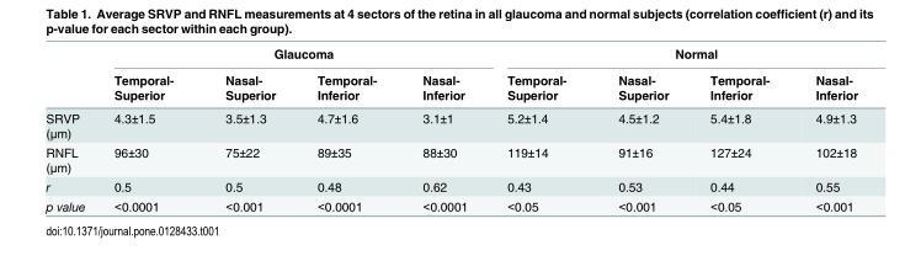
<table><thead><tr><td rowspan="2"></td><td colspan="4">Glaucoma</td><td colspan="4">Normal</td></tr><tr><td>Temporal- Superior</td><td>Nasal- Superior</td><td>Temporal- Inferior</td><td>Nasal- Inferior</td><td>Temporal- Superior</td><td>Nasal- Superior</td><td>Temporal- Inferior</td><td>Nasal- Inferior</td></tr></thead><tbody><tr><td>SRVP (μm)</td><td>4.3±1.5</td><td>3.5±1.3</td><td>4.7±1.6</td><td>3.1±1</td><td>5.2±1.4</td><td>4.5±1.2</td><td>5.4±1.8</td><td>4.9±1.3</td></tr><tr><td>RNFL (μm)</td><td>96±30</td><td>75±22</td><td>89±35</td><td>88±30</td><td>119±14</td><td>91±16</td><td>127±24</td><td>102±18</td></tr><tr><td>r</td><td>0.5</td><td>0.5</td><td>0.48</td><td>0.62</td><td>0.43</td><td>0.53</td><td>0.44</td><td>0.55</td></tr><tr><td>p value</td><td>&lt;0.0001</td><td>&lt;0.001</td><td>&lt;0.0001</td><td>&lt;0.0001</td><td>&lt;0.05</td><td>&lt;0.001</td><td>&lt;0.05</td><td>&lt;0.001</td></tr></tbody></table>